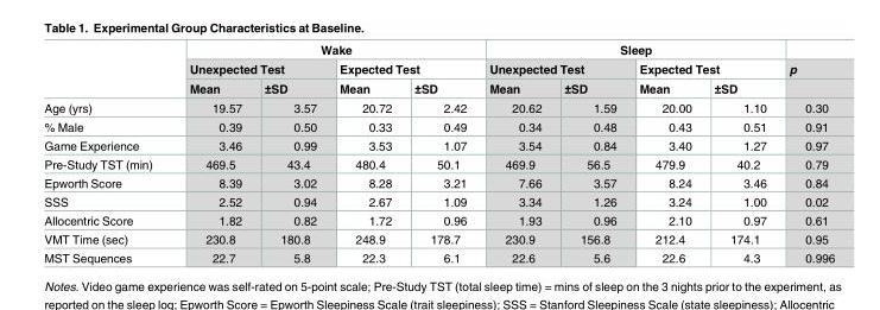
<table><thead><tr><td rowspan="3"></td><td colspan="4">Wake</td><td colspan="4">Sleep</td><td rowspan="3">p</td></tr><tr><td colspan="2">Unexpected Test</td><td colspan="2">Expected Test</td><td colspan="2">Unexpected Test</td><td colspan="2">Expected Test</td></tr><tr><td>Mean</td><td>±SD</td><td>Mean</td><td>±SD</td><td>Mean</td><td>±SD</td><td>Mean</td><td>±SD</td></tr></thead><tbody><tr><td>Age (yrs)</td><td>19.57</td><td>3.57</td><td>20.72</td><td>2.42</td><td>20.62</td><td>1.59</td><td>20.00</td><td>1.10</td><td>0.30</td></tr><tr><td>% Male</td><td>0.39</td><td>0.50</td><td>0.33</td><td>0.49</td><td>0.34</td><td>0.48</td><td>0.43</td><td>0.51</td><td>0.91</td></tr><tr><td>Game Experience</td><td>3.46</td><td>0.99</td><td>3.53</td><td>1.07</td><td>3.54</td><td>0.84</td><td>3.40</td><td>1.27</td><td>0.97</td></tr><tr><td>Pre-Study TST (min)</td><td>469.5</td><td>43.4</td><td>480.4</td><td>50.1</td><td>469.9</td><td>56.5</td><td>479.9</td><td>40.2</td><td>0.79</td></tr><tr><td>Epworth Score</td><td>8.39</td><td>3.02</td><td>8.28</td><td>3.21</td><td>7.66</td><td>3.57</td><td>8.24</td><td>3.46</td><td>0.84</td></tr><tr><td>SSS</td><td>2.52</td><td>0.94</td><td>2.67</td><td>1.09</td><td>3.34</td><td>1.26</td><td>3.24</td><td>1.00</td><td>0.02</td></tr><tr><td>Allocentric Score</td><td>1.82</td><td>0.82</td><td>1.72</td><td>0.96</td><td>1.93</td><td>0.96</td><td>2.10</td><td>0.97</td><td>0.61</td></tr><tr><td>VMT Time (sec)</td><td>230.8</td><td>180.8</td><td>248.9</td><td>178.7</td><td>230.9</td><td>156.8</td><td>212.4</td><td>174.1</td><td>0.95</td></tr><tr><td>MST Sequences</td><td>22.7</td><td>5.8</td><td>22.3</td><td>6.1</td><td>22.6</td><td>5.6</td><td>22.6</td><td>4.3</td><td>0.996</td></tr></tbody></table>